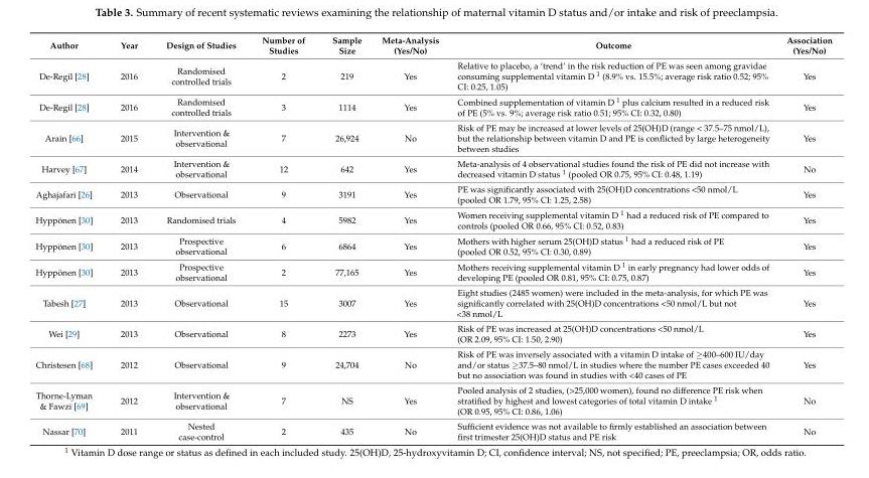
<table><thead><tr><td>Author</td><td>Year</td><td>Design of Studies</td><td>Number of Studies</td><td>Sample Size</td><td>Meta-Analysis (Yes/No)</td><td>Outcome</td><td>Association (Yes/No)</td></tr></thead><tbody><tr><td>De-Regil [28]</td><td>2016</td><td>Randomised controlled trials</td><td>2</td><td>219</td><td>Yes</td><td>Relative to placebo, a ‘trend’ in the risk reduction of PE was seen among gravidae consuming supplemental vitamin D <sup>1</sup> (8.9% vs. 15.5%; average risk ratio 0.52; 95% CI: 0.25, 1.05)</td><td>Yes</td></tr><tr><td>De-Regil [28]</td><td>2016</td><td>Randomised controlled trials</td><td>3</td><td>1114</td><td>Yes</td><td>Combined supplementation of vitamin D <sup>1</sup> plus calcium resulted in a reduced risk of PE (5% vs. 9%; average risk ratio 0.51; 95% CI: 0.32, 0.80)</td><td>Yes</td></tr><tr><td>Arain [66]</td><td>2015</td><td>Intervention &amp; observational</td><td>7</td><td>26,924</td><td>No</td><td>Risk of PE may be increased at lower levels of 25(OH)D (range &lt; 37.5–75 nmol/L), but the relationship between vitamin D and PE is conflicted by large heterogeneity between studies</td><td>Yes</td></tr><tr><td>Harvey [67]</td><td>2014</td><td>Intervention &amp; observational</td><td>12</td><td>642</td><td>Yes</td><td>Meta-analysis of 4 observational studies found the risk of PE did not increase with decreased vitamin D status <sup>1</sup> (pooled OR 0.75, 95% CI: 0.48, 1.19)</td><td>No</td></tr><tr><td>Aghajafari [26]</td><td>2013</td><td>Observational</td><td>9</td><td>3191</td><td>Yes</td><td>PE was significantly associated with 25(OH)D concentrations &lt;50 nmol/L (pooled OR 1.79, 95% CI: 1.25, 2.58)</td><td>Yes</td></tr><tr><td>Hyppönen [30]</td><td>2013</td><td>Randomised trials</td><td>4</td><td>5982</td><td>Yes</td><td>Women receiving supplemental vitamin D <sup>1</sup> had a reduced risk of PE compared to controls (pooled OR 0.66, 95% CI: 0.52, 0.83)</td><td>Yes</td></tr><tr><td>Hyppönen [30]</td><td>2013</td><td>Prospective observational</td><td>6</td><td>6864</td><td>Yes</td><td>Mothers with higher serum 25(OH)D status <sup>1</sup> had a reduced risk of PE (pooled OR 0.52, 95% CI: 0.30, 0.89)</td><td>Yes</td></tr><tr><td>Hyppönen [30]</td><td>2013</td><td>Prospective observational</td><td>2</td><td>77,165</td><td>Yes</td><td>Mothers receiving supplemental vitamin D <sup>1</sup> in early pregnancy had lower odds of developing PE (pooled OR 0.81, 95% CI: 0.75, 0.87)</td><td>Yes</td></tr><tr><td>Tabesh [27]</td><td>2013</td><td>Observational</td><td>15</td><td>3007</td><td>Yes</td><td>Eight studies (2485 women) were included in the meta-analysis, for which PE was significantly correlated with 25(OH)D concentrations &lt;50 nmol/L but not &lt;38 nmol/L</td><td>Yes</td></tr><tr><td>Wei [29]</td><td>2013</td><td>Observational</td><td>8</td><td>2273</td><td>Yes</td><td>Risk of PE was increased at 25(OH)D concentrations &lt;50 nmol/L (OR 2.09, 95% CI: 1.50, 2.90)</td><td>Yes</td></tr><tr><td>Christesen [68]</td><td>2012</td><td>Observational</td><td>9</td><td>24,704</td><td>No</td><td>Risk of PE was inversely associated with a vitamin D intake of ≥400–600 IU/day and/or status ≥37.5–80 nmol/L in studies where the number PE cases exceeded 40 but no association was found in studies with &lt;40 cases of PE</td><td>Yes</td></tr><tr><td>Thorne-Lyman &amp; Fawzi [69]</td><td>2012</td><td>Intervention &amp; observational</td><td>7</td><td>NS</td><td>Yes</td><td>Pooled analysis of 2 studies, (&gt;25,000 women), found no difference PE risk when stratified by highest and lowest categories of total vitamin D intake <sup>1</sup> (OR 0.95, 95% CI: 0.86, 1.06)</td><td>No</td></tr><tr><td>Nassar [70]</td><td>2011</td><td>Nested case-control</td><td>2</td><td>435</td><td>No</td><td>Sufficient evidence was not available to firmly established an association between first trimester 25(OH)D status and PE risk</td><td>No</td></tr></tbody></table>